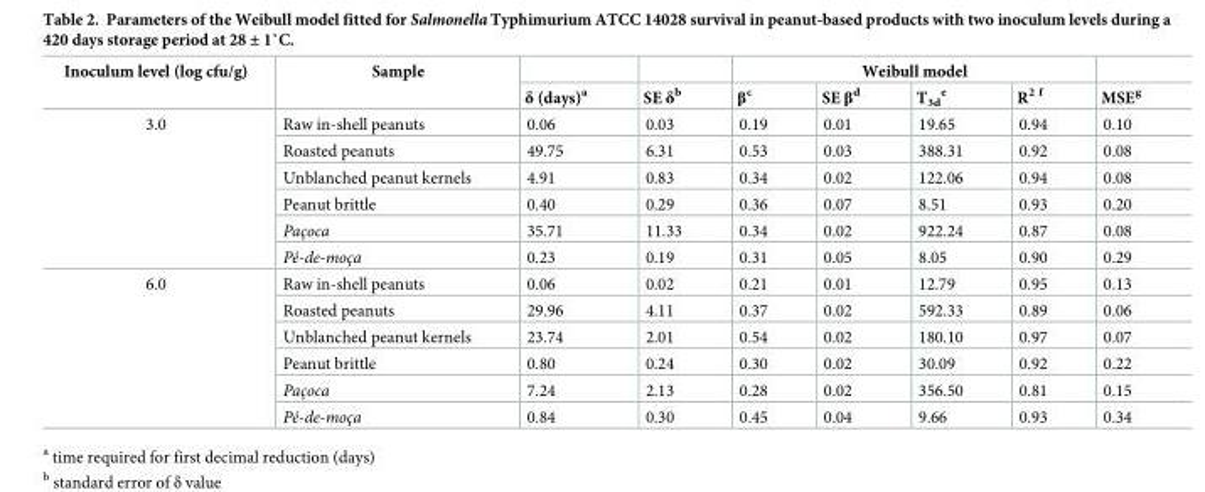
<table><thead><tr><td rowspan="2">Inoculum level (log cfu/g)</td><td rowspan="2">Sample</td><td rowspan="2">δ (days)<sup>a</sup></td><td rowspan="2">SE δ<sup>b</sup></td><td colspan="4">Weibull model</td><td rowspan="2">MSE<sup>g</sup></td></tr><tr><td>β<sup>c</sup></td><td>SE β<sup>d</sup></td><td>T<sub>3d</sub> <sup>e</sup></td><td>R<sup>2 f</sup></td></tr></thead><tbody><tr><td rowspan="6">3.0</td><td>Raw in-shell peanuts</td><td>0.06</td><td>0.03</td><td>0.19</td><td>0.01</td><td>19.65</td><td>0.94</td><td>0.10</td></tr><tr><td>Roasted peanuts</td><td>49.75</td><td>6.31</td><td>0.53</td><td>0.03</td><td>388.31</td><td>0.92</td><td>0.08</td></tr><tr><td>Unblanched peanut kernels</td><td>4.91</td><td>0.83</td><td>0.34</td><td>0.02</td><td>122.06</td><td>0.94</td><td>0.08</td></tr><tr><td>Peanut brittle</td><td>0.40</td><td>0.29</td><td>0.36</td><td>0.07</td><td>8.51</td><td>0.93</td><td>0.20</td></tr><tr><td>Paçoca</td><td>35.71</td><td>11.33</td><td>0.34</td><td>0.02</td><td>922.24</td><td>0.87</td><td>0.08</td></tr><tr><td>Pé-de-moça</td><td>0.23</td><td>0.19</td><td>0.31</td><td>0.05</td><td>8.05</td><td>0.90</td><td>0.29</td></tr><tr><td rowspan="6">6.0</td><td>Raw in-shell peanuts</td><td>0.06</td><td>0.02</td><td>0.21</td><td>0.01</td><td>12.79</td><td>0.95</td><td>0.13</td></tr><tr><td>Roasted peanuts</td><td>29.96</td><td>4.11</td><td>0.37</td><td>0.02</td><td>592.33</td><td>0.89</td><td>0.06</td></tr><tr><td>Unblanched peanut kernels</td><td>23.74</td><td>2.01</td><td>0.54</td><td>0.02</td><td>180.10</td><td>0.97</td><td>0.07</td></tr><tr><td>Peanut brittle</td><td>0.80</td><td>0.24</td><td>0.30</td><td>0.02</td><td>30.09</td><td>0.92</td><td>0.22</td></tr><tr><td>Paçoca</td><td>7.24</td><td>2.13</td><td>0.28</td><td>0.02</td><td>356.50</td><td>0.81</td><td>0.15</td></tr><tr><td>Pé-de-moça</td><td>0.84</td><td>0.30</td><td>0.45</td><td>0.04</td><td>9.66</td><td>0.93</td><td>0.34</td></tr></tbody></table>